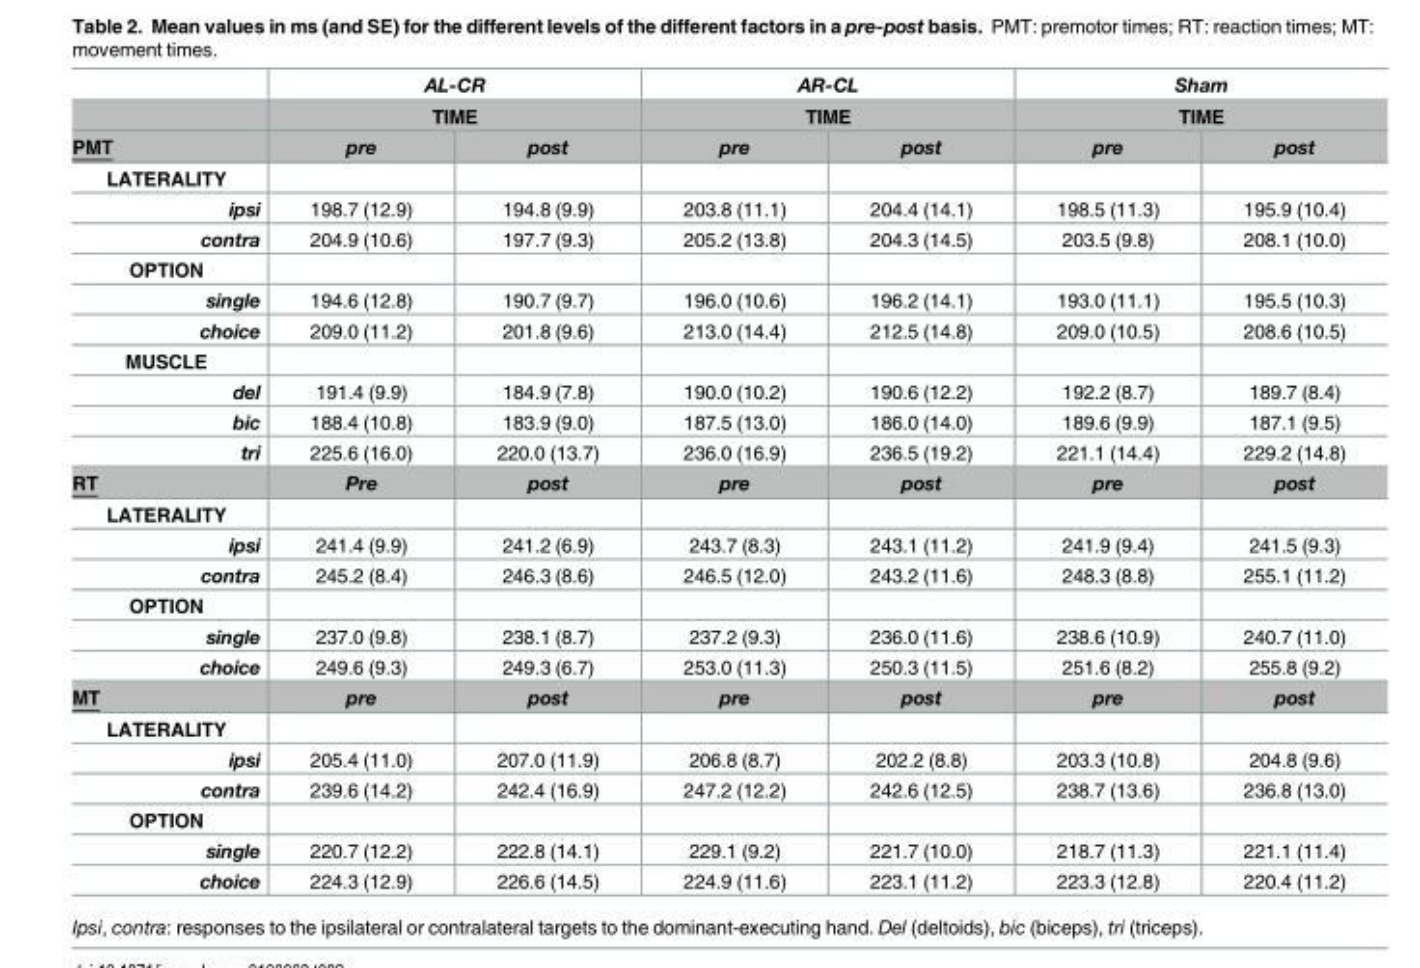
<table><thead><tr><td rowspan="3">PMT</td><td rowspan="2" colspan="2">AL-CR TIME</td><td rowspan="2" colspan="2">AR-CL TIME</td><td rowspan="2" colspan="2">Sham TIME</td></tr><tr></tr><tr><td>pre</td><td>post</td><td>pre</td><td>post</td><td>pre</td><td>post</td></tr></thead><tbody><tr><td colspan="7">LATERALITY</td></tr><tr><td>ipsi</td><td>198.7 (12.9)</td><td>194.8 (9.9)</td><td>203.8 (11.1)</td><td>204.4 (14.1)</td><td>198.5 (11.3)</td><td>195.9 (10.4)</td></tr><tr><td>contra</td><td>204.9 (10.6)</td><td>197.7 (9.3)</td><td>205.2 (13.8)</td><td>204.3 (14.5)</td><td>203.5 (9.8)</td><td>208.1 (10.0)</td></tr><tr><td colspan="7">OPTION</td></tr><tr><td>single</td><td>194.6 (12.8)</td><td>190.7 (9.7)</td><td>196.0 (10.6)</td><td>196.2 (14.1)</td><td>193.0 (11.1)</td><td>195.5 (10.3)</td></tr><tr><td>choice</td><td>209.0 (11.2)</td><td>201.8 (9.6)</td><td>213.0 (14.4)</td><td>212.5 (14.8)</td><td>209.0 (10.5)</td><td>208.6 (10.5)</td></tr><tr><td colspan="7">MUSCLE</td></tr><tr><td>del</td><td>191.4 (9.9)</td><td>184.9 (7.8)</td><td>190.0 (10.2)</td><td>190.6 (12.2)</td><td>192.2 (8.7)</td><td>189.7 (8.4)</td></tr><tr><td>bic</td><td>188.4 (10.8)</td><td>183.9 (9.0)</td><td>187.5 (13.0)</td><td>186.0 (14.0)</td><td>189.6 (9.9)</td><td>187.1 (9.5)</td></tr><tr><td>tri</td><td>225.6 (16.0)</td><td>220.0 (13.7)</td><td>236.0 (16.9)</td><td>236.5 (19.2)</td><td>221.1 (14.4)</td><td>229.2 (14.8)</td></tr><tr><td>RT</td><td>Pre</td><td>post</td><td>pre</td><td>post</td><td>pre</td><td>post</td></tr><tr><td colspan="7">LATERALITY</td></tr><tr><td>ipsi</td><td>241.4 (9.9)</td><td>241.2 (6.9)</td><td>243.7 (8.3)</td><td>243.1 (11.2)</td><td>241.9 (9.4)</td><td>241.5 (9.3)</td></tr><tr><td>contra</td><td>245.2 (8.4)</td><td>246.3 (8.6)</td><td>246.5 (12.0)</td><td>243.2 (11.6)</td><td>248.3 (8.8)</td><td>255.1 (11.2)</td></tr><tr><td colspan="7">OPTION</td></tr><tr><td>single</td><td>237.0 (9.8)</td><td>238.1 (8.7)</td><td>237.2 (9.3)</td><td>236.0 (11.6)</td><td>238.6 (10.9)</td><td>240.7 (11.0)</td></tr><tr><td>choice</td><td>249.6 (9.3)</td><td>249.3 (6.7)</td><td>253.0 (11.3)</td><td>250.3 (11.5)</td><td>251.6 (8.2)</td><td>255.8 (9.2)</td></tr><tr><td>MT</td><td>pre</td><td>post</td><td>pre</td><td>post</td><td>pre</td><td>post</td></tr><tr><td colspan="7">LATERALITY</td></tr><tr><td>ipsi</td><td>205.4 (11.0)</td><td>207.0 (11.9)</td><td>206.8 (8.7)</td><td>202.2 (8.8)</td><td>203.3 (10.8)</td><td>204.8 (9.6)</td></tr><tr><td>contra</td><td>239.6 (14.2)</td><td>242.4 (16.9)</td><td>247.2 (12.2)</td><td>242.6 (12.5)</td><td>238.7 (13.6)</td><td>236.8 (13.0)</td></tr><tr><td colspan="7">OPTION</td></tr><tr><td>single</td><td>220.7 (12.2)</td><td>222.8 (14.1)</td><td>229.1 (9.2)</td><td>221.7 (10.0)</td><td>218.7 (11.3)</td><td>221.1 (11.4)</td></tr><tr><td>choice</td><td>224.3 (12.9)</td><td>226.6 (14.5)</td><td>224.9 (11.6)</td><td>223.1 (11.2)</td><td>223.3 (12.8)</td><td>220.4 (11.2)</td></tr></tbody></table>